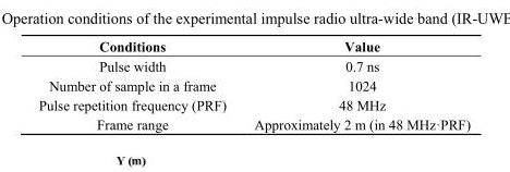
<table><thead><tr><td>Conditions</td><td>Value</td></tr></thead><tbody><tr><td>Pulse width</td><td>0.7 ns</td></tr><tr><td>Number of sample in a frame</td><td>1024</td></tr><tr><td>Pulse repetition frequency (PRF)</td><td>48 MHz</td></tr><tr><td>Frame range</td><td>Approximately 2 m (in 48 MHz·PRF)</td></tr></tbody></table>